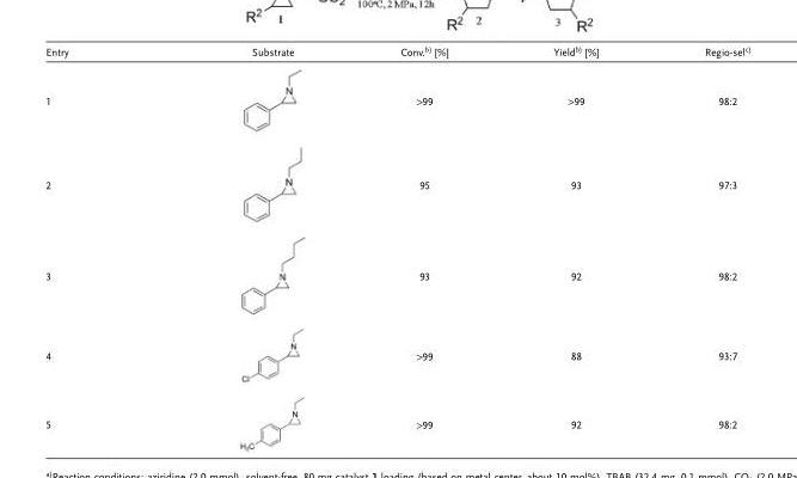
<table><thead><tr><td>Entry</td><td>Substrate</td><td>Conv.b) [%]</td><td>Yieldb) [%]</td><td>Regio-selc)</td></tr></thead><tbody><tr><td>1</td><td></td><td>&gt;99</td><td>&gt;99</td><td>98:2</td></tr><tr><td>2</td><td></td><td>95</td><td>93</td><td>97:3</td></tr><tr><td>3</td><td></td><td>93</td><td>92</td><td>98:2</td></tr><tr><td>4</td><td></td><td>&gt;99</td><td>88</td><td>93:7</td></tr><tr><td>5</td><td></td><td>&gt;99</td><td>92</td><td>98:2</td></tr></tbody></table>